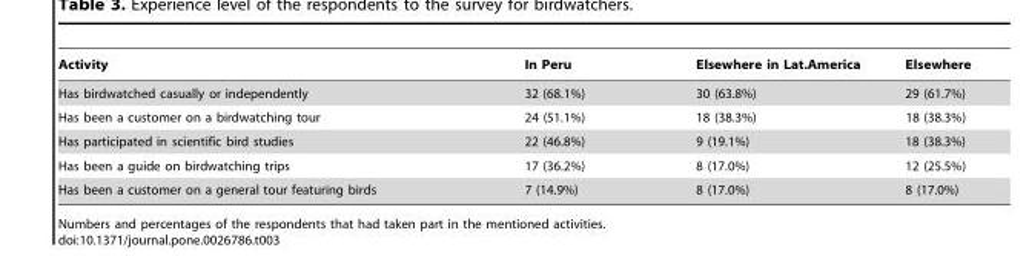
<table><thead><tr><td>Activity</td><td>In Peru</td><td>Elsewhere in Lat.America</td><td>Elsewhere</td></tr></thead><tbody><tr><td>Has birdwatched casually or independently</td><td>32 (68.1%)</td><td>30 (63.8%)</td><td>29 (61.7%)</td></tr><tr><td>Has been a customer on a birdwatching tour</td><td>24 (51.1%)</td><td>18 (38.3%)</td><td>18 (38.3%)</td></tr><tr><td>Has participated in scientific bird studies</td><td>22 (46.8%)</td><td>9 (19.1%)</td><td>18 (38.3%)</td></tr><tr><td>Has been a guide on birdwatching trips</td><td>17 (36.2%)</td><td>8 (17.0%)</td><td>12 (25.5%)</td></tr><tr><td>Has been a customer on a general tour featuring birds</td><td>7 (14.9%)</td><td>8 (17.0%)</td><td>8 (17.0%)</td></tr></tbody></table>